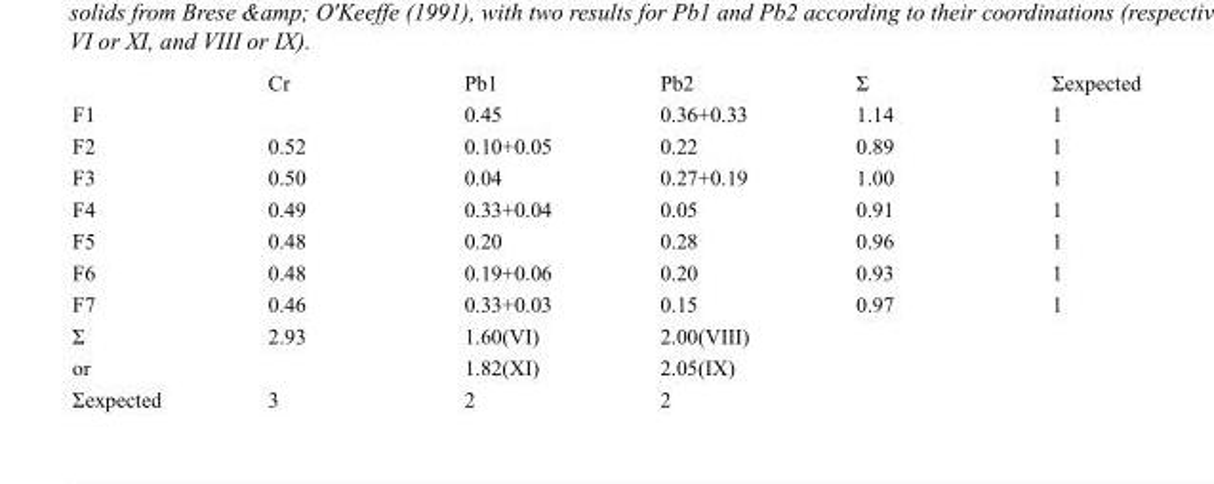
<table><thead><tr><td></td><td>Cr</td><td>Pb1</td><td>Pb2</td><td>Σ</td><td>Σexpected</td></tr></thead><tbody><tr><td>F1</td><td></td><td>0.45</td><td>0.36+0.33</td><td>1.14</td><td>1</td></tr><tr><td>F2</td><td>0.52</td><td>0.10+0.05</td><td>0.22</td><td>0.89</td><td>1</td></tr><tr><td>F3</td><td>0.50</td><td>0.04</td><td>0.27+0.19</td><td>1.00</td><td>1</td></tr><tr><td>F4</td><td>0.49</td><td>0.33+0.04</td><td>0.05</td><td>0.91</td><td>1</td></tr><tr><td>F5</td><td>0.48</td><td>0.20</td><td>0.28</td><td>0.96</td><td>1</td></tr><tr><td>F6</td><td>0.48</td><td>0.19+0.06</td><td>0.20</td><td>0.93</td><td>1</td></tr><tr><td>F7</td><td>0.46</td><td>0.33+0.03</td><td>0.15</td><td>0.97</td><td>1</td></tr><tr><td>Σ</td><td>2.93</td><td>1.60(VI)</td><td>2.00(VIII)</td><td></td><td></td></tr><tr><td>or</td><td></td><td>1.82(XI)</td><td>2.05(IX)</td><td></td><td></td></tr><tr><td>Σexpected</td><td>3</td><td>2</td><td>2</td><td></td><td></td></tr></tbody></table>